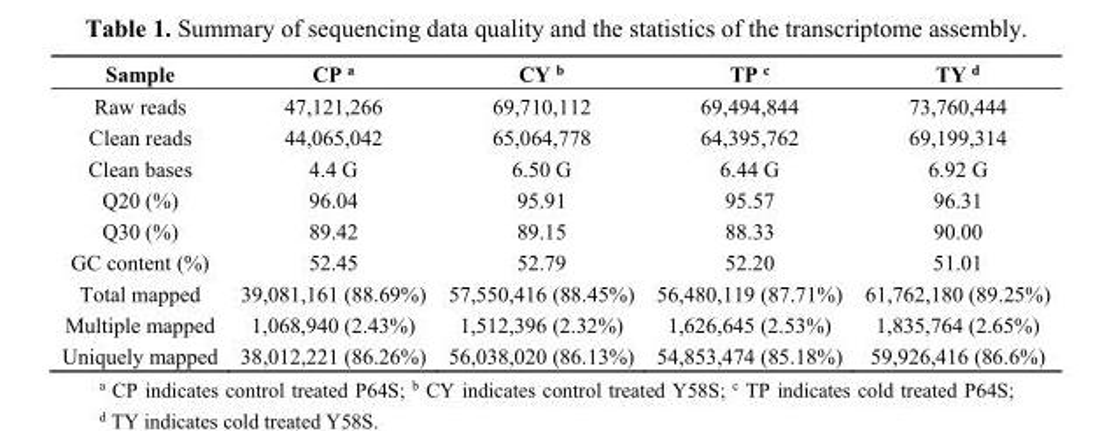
<table><thead><tr><td>Sample</td><td>CP <sup>a</sup></td><td>CY <sup>b</sup></td><td>TP <sup>c</sup></td><td>TY <sup>d</sup></td></tr></thead><tbody><tr><td>Raw reads</td><td>47,121,266</td><td>69,710,112</td><td>69,494,844</td><td>73,760,444</td></tr><tr><td>Clean reads</td><td>44,065,042</td><td>65,064,778</td><td>64,395,762</td><td>69,199,314</td></tr><tr><td>Clean bases</td><td>4.4 G</td><td>6.50 G</td><td>6.44 G</td><td>6.92 G</td></tr><tr><td>Q20 (%)</td><td>96.04</td><td>95.91</td><td>95.57</td><td>96.31</td></tr><tr><td>Q30 (%)</td><td>89.42</td><td>89.15</td><td>88.33</td><td>90.00</td></tr><tr><td>GC content (%)</td><td>52.45</td><td>52.79</td><td>52.20</td><td>51.01</td></tr><tr><td>Total mapped</td><td>39,081,161 (88.69%)</td><td>57,550,416 (88.45%)</td><td>56,480,119 (87.71%)</td><td>61,762,180 (89.25%)</td></tr><tr><td>Multiple mapped</td><td>1,068,940 (2.43%)</td><td>1,512,396 (2.32%)</td><td>1,626,645 (2.53%)</td><td>1,835,764 (2.65%)</td></tr><tr><td>Uniquely mapped</td><td>38,012,221 (86.26%)</td><td>56,038,020 (86.13%)</td><td>54,853,474 (85.18%)</td><td>59,926,416 (86.6%)</td></tr></tbody></table>